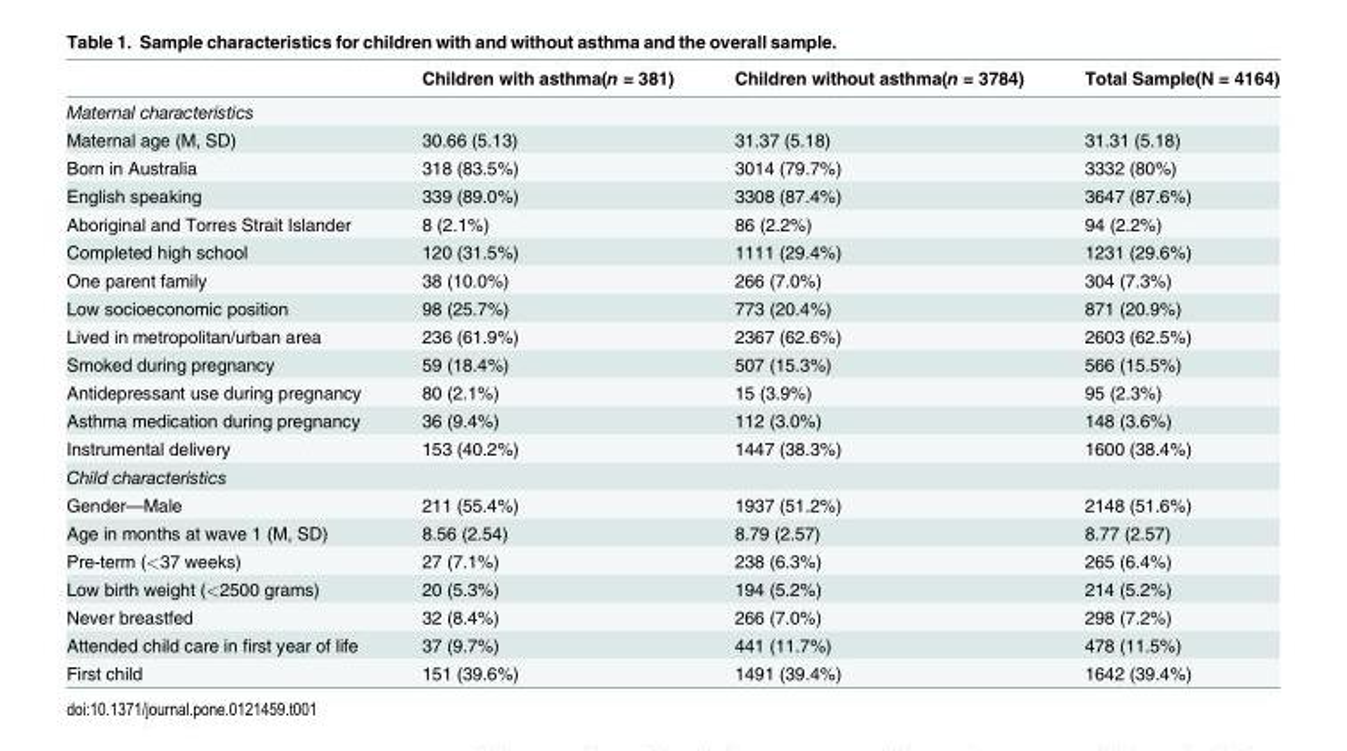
<table><thead><tr><td></td><td>Children with asthma(n = 381)</td><td>Children without asthma(n = 3784)</td><td>Total Sample(N = 4164)</td></tr></thead><tbody><tr><td colspan="4">Maternal characteristics</td></tr><tr><td>Maternal age (M, SD)</td><td>30.66 (5.13)</td><td>31.37 (5.18)</td><td>31.31 (5.18)</td></tr><tr><td>Born in Australia</td><td>318 (83.5%)</td><td>3014 (79.7%)</td><td>3332 (80%)</td></tr><tr><td>English speaking</td><td>339 (89.0%)</td><td>3308 (87.4%)</td><td>3647 (87.6%)</td></tr><tr><td>Aboriginal and Torres Strait Islander</td><td>8 (2.1%)</td><td>86 (2.2%)</td><td>94 (2.2%)</td></tr><tr><td>Completed high school</td><td>120 (31.5%)</td><td>1111 (29.4%)</td><td>1231 (29.6%)</td></tr><tr><td>One parent family</td><td>38 (10.0%)</td><td>266 (7.0%)</td><td>304 (7.3%)</td></tr><tr><td>Low socioeconomic position</td><td>98 (25.7%)</td><td>773 (20.4%)</td><td>871 (20.9%)</td></tr><tr><td>Lived in metropolitan/urban area</td><td>236 (61.9%)</td><td>2367 (62.6%)</td><td>2603 (62.5%)</td></tr><tr><td>Smoked during pregnancy</td><td>59 (18.4%)</td><td>507 (15.3%)</td><td>566 (15.5%)</td></tr><tr><td>Antidepressant use during pregnancy</td><td>80 (2.1%)</td><td>15 (3.9%)</td><td>95 (2.3%)</td></tr><tr><td>Asthma medication during pregnancy</td><td>36 (9.4%)</td><td>112 (3.0%)</td><td>148 (3.6%)</td></tr><tr><td>Instrumental delivery</td><td>153 (40.2%)</td><td>1447 (38.3%)</td><td>1600 (38.4%)</td></tr><tr><td colspan="4">Child characteristics</td></tr><tr><td>Gender—Male</td><td>211 (55.4%)</td><td>1937 (51.2%)</td><td>2148 (51.6%)</td></tr><tr><td>Age in months at wave 1 (M, SD)</td><td>8.56 (2.54)</td><td>8.79 (2.57)</td><td>8.77 (2.57)</td></tr><tr><td>Pre-term (&lt;37 weeks)</td><td>27 (7.1%)</td><td>238 (6.3%)</td><td>265 (6.4%)</td></tr><tr><td>Low birth weight (&lt;2500 grams)</td><td>20 (5.3%)</td><td>194 (5.2%)</td><td>214 (5.2%)</td></tr><tr><td>Never breastfed</td><td>32 (8.4%)</td><td>266 (7.0%)</td><td>298 (7.2%)</td></tr><tr><td>Attended child care in first year of life</td><td>37 (9.7%)</td><td>441 (11.7%)</td><td>478 (11.5%)</td></tr><tr><td>First child</td><td>151 (39.6%)</td><td>1491 (39.4%)</td><td>1642 (39.4%)</td></tr></tbody></table>